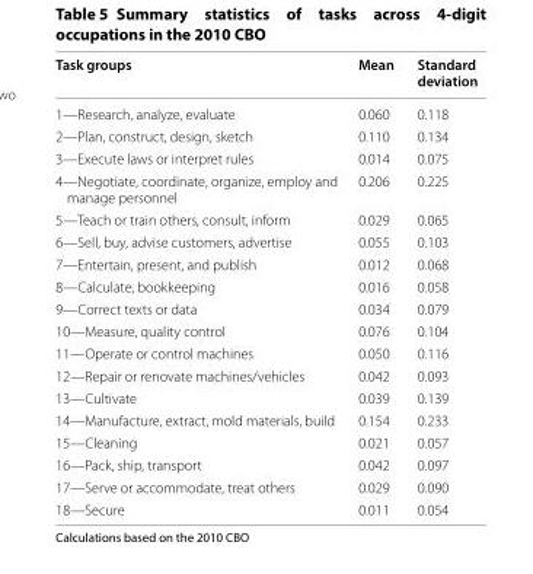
<table><thead><tr><td>Task groups</td><td>Mean</td><td>Standard deviation</td></tr></thead><tbody><tr><td>1—Research, analyze, evaluate</td><td>0.060</td><td>0.118</td></tr><tr><td>2—Plan, construct, design, sketch</td><td>0.110</td><td>0.134</td></tr><tr><td>3—Execute laws or interpret rules</td><td>0.014</td><td>0.075</td></tr><tr><td>4—Negotiate, coordinate, organize, employ and manage personnel</td><td>0.206</td><td>0.225</td></tr><tr><td>5—Teach or train others, consult, inform</td><td>0.029</td><td>0.065</td></tr><tr><td>6—Sell, buy, advise customers, advertise</td><td>0.055</td><td>0.103</td></tr><tr><td>7—Entertain, present, and publish</td><td>0.012</td><td>0.068</td></tr><tr><td>8—Calculate, bookkeeping</td><td>0.016</td><td>0.058</td></tr><tr><td>9—Correct texts or data</td><td>0.034</td><td>0.079</td></tr><tr><td>10—Measure, quality control</td><td>0.076</td><td>0.104</td></tr><tr><td>11—Operate or control machines</td><td>0.050</td><td>0.116</td></tr><tr><td>12—Repair or renovate machines/vehicles</td><td>0.042</td><td>0.093</td></tr><tr><td>13—Cultivate</td><td>0.039</td><td>0.139</td></tr><tr><td>14—Manufacture, extract, mold materials, build</td><td>0.154</td><td>0.233</td></tr><tr><td>15—Cleaning</td><td>0.021</td><td>0.057</td></tr><tr><td>16—Pack, ship, transport</td><td>0.042</td><td>0.097</td></tr><tr><td>17—Serve or accommodate, treat others</td><td>0.029</td><td>0.090</td></tr><tr><td>18—Secure</td><td>0.011</td><td>0.054</td></tr></tbody></table>